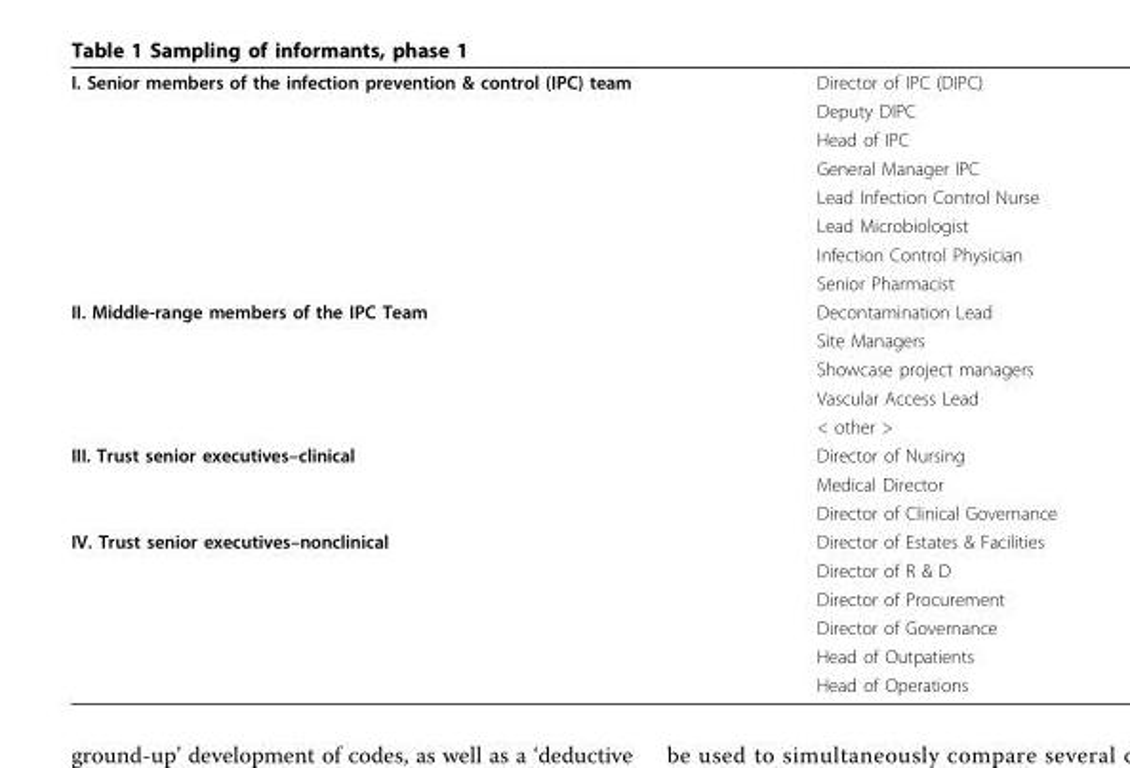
<table><tbody><tr><td rowspan="8">I. Senior members of the infection prevention &amp; control (IPC) team</td><td>Director of IPC (DIPC)</td></tr><tr><td>Deputy DIPC</td></tr><tr><td>Head of IPC</td></tr><tr><td>General Manager IPC</td></tr><tr><td>Lead Infection Control Nurse</td></tr><tr><td>Lead Microbiologist</td></tr><tr><td>Infection Control Physician</td></tr><tr><td>Senior Pharmacist</td></tr><tr><td rowspan="5">II. Middle-range members of the IPC Team</td><td>Decontamination Lead</td></tr><tr><td>Site Managers</td></tr><tr><td>Showcase project managers</td></tr><tr><td>Vascular Access Lead</td></tr><tr><td>&lt; other &gt;</td></tr><tr><td rowspan="3">III. Trust senior executives–clinical</td><td>Director of Nursing</td></tr><tr><td>Medical Director</td></tr><tr><td>Director of Clinical Governance</td></tr><tr><td rowspan="6">IV. Trust senior executives–nonclinical</td><td>Director of Estates &amp; Facilities</td></tr><tr><td>Director of R &amp; D</td></tr><tr><td>Director of Procurement</td></tr><tr><td>Director of Governance</td></tr><tr><td>Head of Outpatients</td></tr><tr><td>Head of Operations</td></tr></tbody></table>